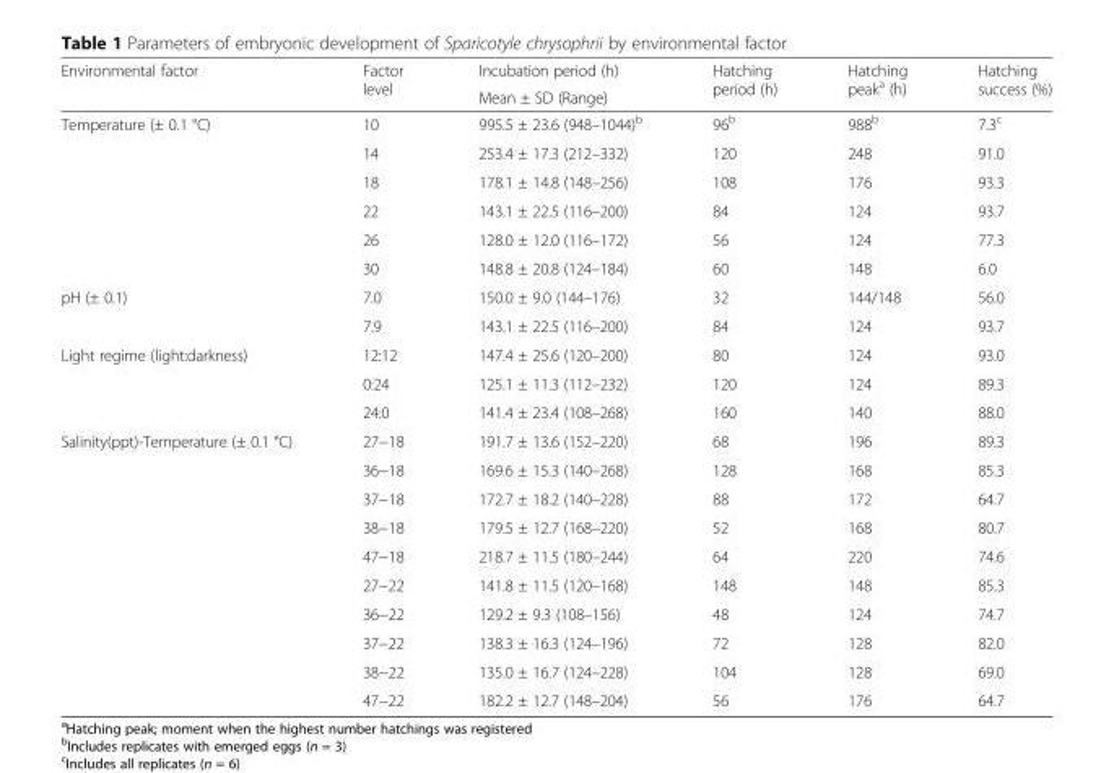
<table><thead><tr><td rowspan="2">Environmental factor</td><td rowspan="2">Factor level</td><td rowspan="2">Incubation period (h) Mean ± SD (Range)</td><td rowspan="2">Hatching period (h)</td><td rowspan="2">Hatching peak<sup>a</sup> (h)</td><td rowspan="2">Hatching success (%)</td></tr><tr></tr></thead><tbody><tr><td rowspan="6">Temperature (± 0.1 °C)</td><td>10</td><td>995.5 ± 23.6 (948–1044)<sup>b</sup></td><td>96<sup>b</sup></td><td>988<sup>b</sup></td><td>7.3<sup>c</sup></td></tr><tr><td>14</td><td>253.4 ± 17.3 (212–332)</td><td>120</td><td>248</td><td>91.0</td></tr><tr><td>18</td><td>178.1 ± 14.8 (148–256)</td><td>108</td><td>176</td><td>93.3</td></tr><tr><td>22</td><td>143.1 ± 22.5 (116–200)</td><td>84</td><td>124</td><td>93.7</td></tr><tr><td>26</td><td>128.0 ± 12.0 (116–172)</td><td>56</td><td>124</td><td>77.3</td></tr><tr><td>30</td><td>148.8 ± 20.8 (124–184)</td><td>60</td><td>148</td><td>6.0</td></tr><tr><td rowspan="2">pH (± 0.1)</td><td>7.0</td><td>150.0 ± 9.0 (144–176)</td><td>32</td><td>144/148</td><td>56.0</td></tr><tr><td>7.9</td><td>143.1 ± 22.5 (116–200)</td><td>84</td><td>124</td><td>93.7</td></tr><tr><td rowspan="3">Light regime (light:darkness)</td><td>12:12</td><td>147.4 ± 25.6 (120–200)</td><td>80</td><td>124</td><td>93.0</td></tr><tr><td>0:24</td><td>125.1 ± 11.3 (112–232)</td><td>120</td><td>124</td><td>89.3</td></tr><tr><td>24:0</td><td>141.4 ± 23.4 (108–268)</td><td>160</td><td>140</td><td>88.0</td></tr><tr><td rowspan="10">Salinity(ppt)-Temperature (± 0.1 °C)</td><td>27−18</td><td>191.7 ± 13.6 (152–220)</td><td>68</td><td>196</td><td>89.3</td></tr><tr><td>36−18</td><td>169.6 ± 15.3 (140–268)</td><td>128</td><td>168</td><td>85.3</td></tr><tr><td>37−18</td><td>172.7 ± 18.2 (140–228)</td><td>88</td><td>172</td><td>64.7</td></tr><tr><td>38−18</td><td>179.5 ± 12.7 (168–220)</td><td>52</td><td>168</td><td>80.7</td></tr><tr><td>47−18</td><td>218.7 ± 11.5 (180–244)</td><td>64</td><td>220</td><td>74.6</td></tr><tr><td>27−22</td><td>141.8 ± 11.5 (120–168)</td><td>148</td><td>148</td><td>85.3</td></tr><tr><td>36−22</td><td>129.2 ± 9.3 (108–156)</td><td>48</td><td>124</td><td>74.7</td></tr><tr><td>37−22</td><td>138.3 ± 16.3 (124–196)</td><td>72</td><td>128</td><td>82.0</td></tr><tr><td>38−22</td><td>135.0 ± 16.7 (124–228)</td><td>104</td><td>128</td><td>69.0</td></tr><tr><td>47−22</td><td>182.2 ± 12.7 (148–204)</td><td>56</td><td>176</td><td>64.7</td></tr></tbody></table>